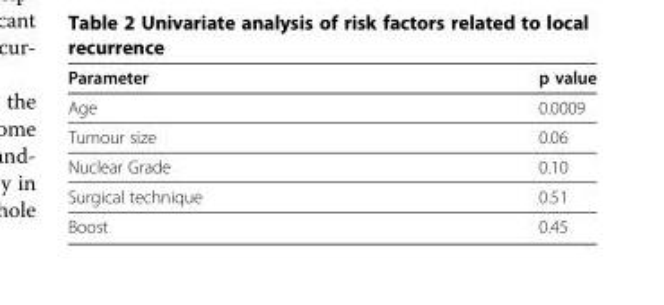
<table><thead><tr><td>Parameter</td><td>p value</td></tr></thead><tbody><tr><td>Age</td><td>0.0009</td></tr><tr><td>Tumour size</td><td>0.06</td></tr><tr><td>Nuclear Grade</td><td>0.10</td></tr><tr><td>Surgical technique</td><td>0.51</td></tr><tr><td>Boost</td><td>0.45</td></tr></tbody></table>